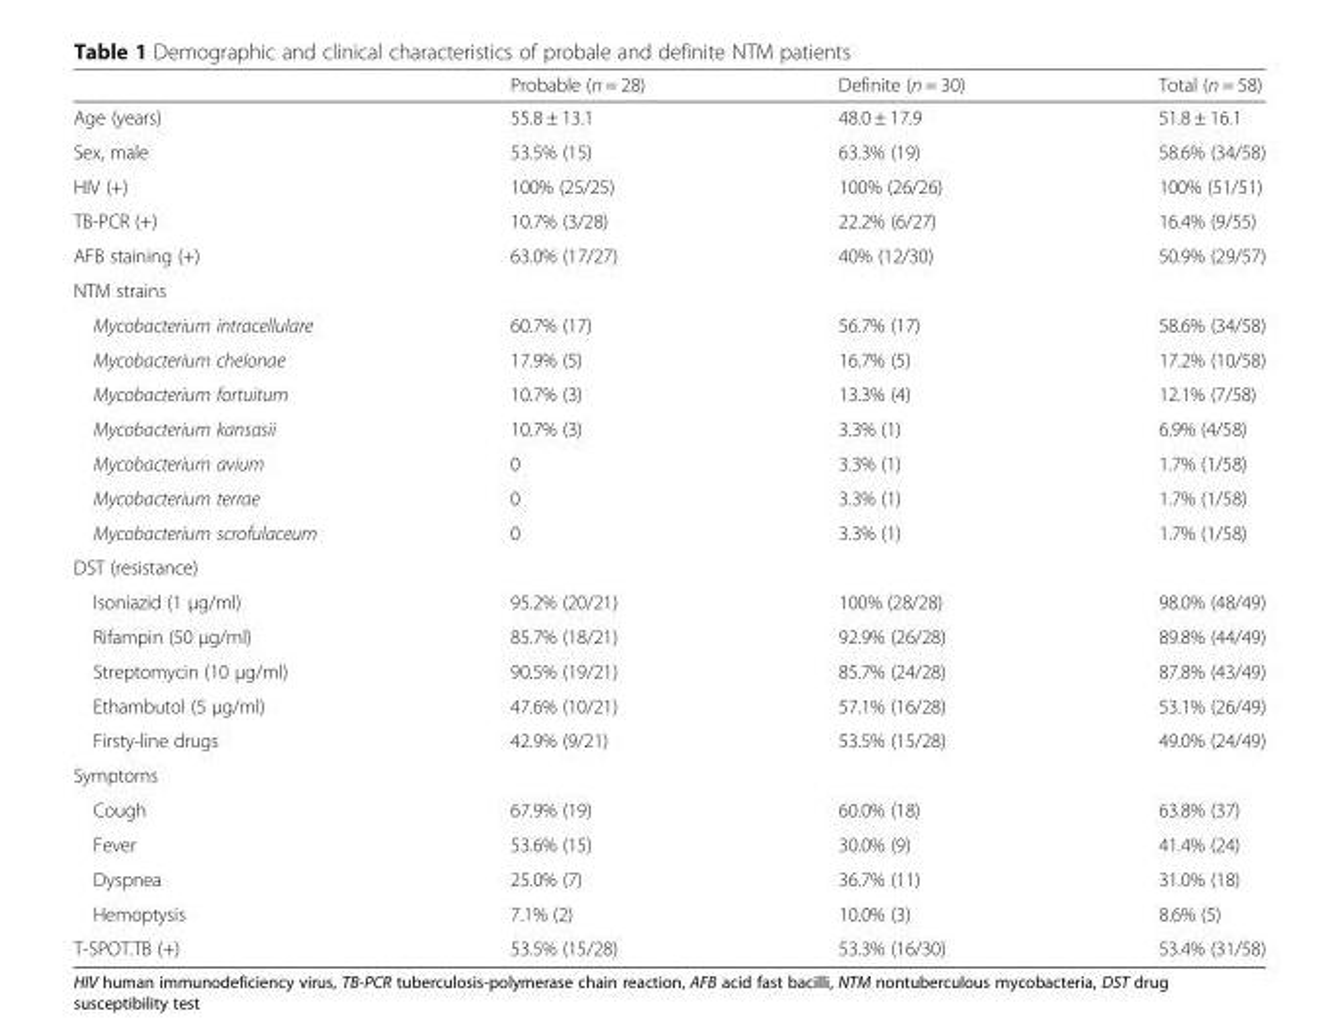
<table><thead><tr><td></td><td>Probable (n = 28)</td><td>Definite (n = 30)</td><td>Total (n = 58)</td></tr></thead><tbody><tr><td>Age (years)</td><td>55.8 ± 13.1</td><td>48.0 ± 17.9</td><td>51.8 ± 16.1</td></tr><tr><td>Sex, male</td><td>53.5% (15)</td><td>63.3% (19)</td><td>58.6% (34/58)</td></tr><tr><td>HIV (+)</td><td>100% (25/25)</td><td>100% (26/26)</td><td>100% (51/51)</td></tr><tr><td>TB-PCR (+)</td><td>10.7% (3/28)</td><td>22.2% (6/27)</td><td>16.4% (9/55)</td></tr><tr><td>AFB staining (+)</td><td>63.0% (17/27)</td><td>40% (12/30)</td><td>50.9% (29/57)</td></tr><tr><td colspan="4">NTM strains</td></tr><tr><td>Mycobacterium intracellulare</td><td>60.7% (17)</td><td>56.7% (17)</td><td>58.6% (34/58)</td></tr><tr><td>Mycobacterium chelonae</td><td>17.9% (5)</td><td>16.7% (5)</td><td>17.2% (10/58)</td></tr><tr><td>Mycobacterium fortuitum</td><td>10.7% (3)</td><td>13.3% (4)</td><td>12.1% (7/58)</td></tr><tr><td>Mycobacterium kansasii</td><td>10.7% (3)</td><td>3.3% (1)</td><td>6.9% (4/58)</td></tr><tr><td>Mycobacterium avium</td><td>0</td><td>3.3% (1)</td><td>1.7% (1/58)</td></tr><tr><td>Mycobacterium terrae</td><td>0</td><td>3.3% (1)</td><td>1.7% (1/58)</td></tr><tr><td>Mycobacterium scrofulaceum</td><td>0</td><td>3.3% (1)</td><td>1.7% (1/58)</td></tr><tr><td colspan="4">DST (resistance)</td></tr><tr><td>Isoniazid (1 μg/ml)</td><td>95.2% (20/21)</td><td>100% (28/28)</td><td>98.0% (48/49)</td></tr><tr><td>Rifampin (50 μg/ml)</td><td>85.7% (18/21)</td><td>92.9% (26/28)</td><td>89.8% (44/49)</td></tr><tr><td>Streptomycin (10 μg/ml)</td><td>90.5% (19/21)</td><td>85.7% (24/28)</td><td>87.8% (43/49)</td></tr><tr><td>Ethambutol (5 μg/ml)</td><td>47.6% (10/21)</td><td>57.1% (16/28)</td><td>53.1% (26/49)</td></tr><tr><td>Firsty-line drugs</td><td>42.9% (9/21)</td><td>53.5% (15/28)</td><td>49.0% (24/49)</td></tr><tr><td colspan="4">Symptoms</td></tr><tr><td>Cough</td><td>67.9% (19)</td><td>60.0% (18)</td><td>63.8% (37)</td></tr><tr><td>Fever</td><td>53.6% (15)</td><td>30.0% (9)</td><td>41.4% (24)</td></tr><tr><td>Dyspnea</td><td>25.0% (7)</td><td>36.7% (11)</td><td>31.0% (18)</td></tr><tr><td>Hemoptysis</td><td>7.1% (2)</td><td>10.0% (3)</td><td>8.6% (5)</td></tr><tr><td>T-SPOT.TB (+)</td><td>53.5% (15/28)</td><td>53.3% (16/30)</td><td>53.4% (31/58)</td></tr></tbody></table>